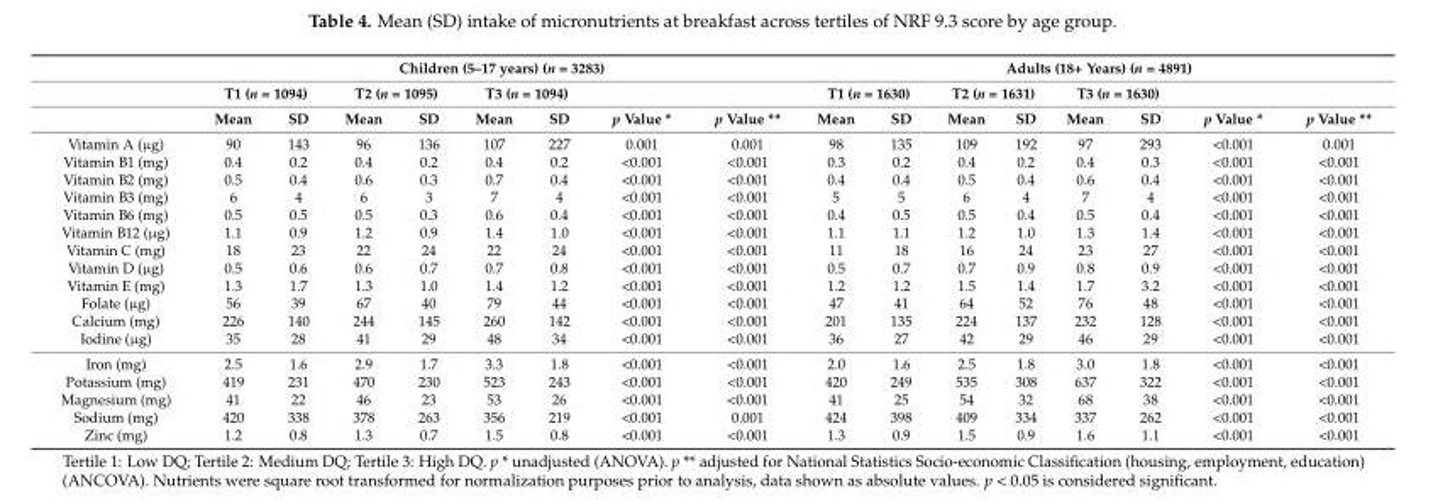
<table><thead><tr><td rowspan="3"></td><td colspan="8">Children (5–17 years) (n = 3283)</td><td colspan="8">Adults (18+ Years) (n = 4891)</td></tr><tr><td colspan="2">T1 (n = 1094)</td><td colspan="2">T2 (n = 1095)</td><td colspan="2">T3 (n = 1094)</td><td rowspan="2">p Value *</td><td rowspan="2">p Value **</td><td colspan="2">T1 (n = 1630)</td><td colspan="2">T2 (n = 1631)</td><td colspan="2">T3 (n = 1630)</td><td rowspan="2">p Value *</td><td rowspan="2">p Value **</td></tr><tr><td>Mean</td><td>SD</td><td>Mean</td><td>SD</td><td>Mean</td><td>SD</td><td>Mean</td><td>SD</td><td>Mean</td><td>SD</td><td>Mean</td><td>SD</td></tr></thead><tbody><tr><td>Vitamin A (µg)</td><td>90</td><td>143</td><td>96</td><td>136</td><td>107</td><td>227</td><td>0.001</td><td>0.001</td><td>98</td><td>135</td><td>109</td><td>192</td><td>97</td><td>293</td><td>&lt;0.001</td><td>0.001</td></tr><tr><td>Vitamin B1 (mg)</td><td>0.4</td><td>0.2</td><td>0.4</td><td>0.2</td><td>0.4</td><td>0.2</td><td>&lt;0.001</td><td>&lt;0.001</td><td>0.3</td><td>0.2</td><td>0.4</td><td>0.2</td><td>0.4</td><td>0.3</td><td>&lt;0.001</td><td>&lt;0.001</td></tr><tr><td>Vitamin B2 (mg)</td><td>0.5</td><td>0.4</td><td>0.6</td><td>0.3</td><td>0.7</td><td>0.4</td><td>&lt;0.001</td><td>&lt;0.001</td><td>0.4</td><td>0.4</td><td>0.5</td><td>0.4</td><td>0.6</td><td>0.4</td><td>&lt;0.001</td><td>&lt;0.001</td></tr><tr><td>Vitamin B3 (mg)</td><td>6</td><td>4</td><td>6</td><td>3</td><td>7</td><td>4</td><td>&lt;0.001</td><td>&lt;0.001</td><td>5</td><td>5</td><td>6</td><td>4</td><td>7</td><td>4</td><td>&lt;0.001</td><td>&lt;0.001</td></tr><tr><td>Vitamin B6 (mg)</td><td>0.5</td><td>0.5</td><td>0.5</td><td>0.3</td><td>0.6</td><td>0.4</td><td>&lt;0.001</td><td>&lt;0.001</td><td>0.4</td><td>0.5</td><td>0.5</td><td>0.4</td><td>0.5</td><td>0.4</td><td>&lt;0.001</td><td>&lt;0.001</td></tr><tr><td>Vitamin B12 (µg)</td><td>1.1</td><td>0.9</td><td>1.2</td><td>0.9</td><td>1.4</td><td>1.0</td><td>&lt;0.001</td><td>&lt;0.001</td><td>1.1</td><td>1.1</td><td>1.2</td><td>1.0</td><td>1.3</td><td>1.4</td><td>&lt;0.001</td><td>&lt;0.001</td></tr><tr><td>Vitamin C (mg)</td><td>18</td><td>23</td><td>22</td><td>24</td><td>22</td><td>24</td><td>&lt;0.001</td><td>&lt;0.001</td><td>11</td><td>18</td><td>16</td><td>24</td><td>23</td><td>27</td><td>&lt;0.001</td><td>&lt;0.001</td></tr><tr><td>Vitamin D (µg)</td><td>0.5</td><td>0.6</td><td>0.6</td><td>0.7</td><td>0.7</td><td>0.8</td><td>&lt;0.001</td><td>&lt;0.001</td><td>0.5</td><td>0.7</td><td>0.7</td><td>0.9</td><td>0.8</td><td>0.9</td><td>&lt;0.001</td><td>&lt;0.001</td></tr><tr><td>Vitamin E (mg)</td><td>1.3</td><td>1.7</td><td>1.3</td><td>1.0</td><td>1.4</td><td>1.2</td><td>&lt;0.001</td><td>&lt;0.001</td><td>1.2</td><td>1.2</td><td>1.5</td><td>1.4</td><td>1.7</td><td>3.2</td><td>&lt;0.001</td><td>&lt;0.001</td></tr><tr><td>Folate (µg)</td><td>56</td><td>39</td><td>67</td><td>40</td><td>79</td><td>44</td><td>&lt;0.001</td><td>&lt;0.001</td><td>47</td><td>41</td><td>64</td><td>52</td><td>76</td><td>48</td><td>&lt;0.001</td><td>&lt;0.001</td></tr><tr><td>Calcium (mg)</td><td>226</td><td>140</td><td>244</td><td>145</td><td>260</td><td>142</td><td>&lt;0.001</td><td>&lt;0.001</td><td>201</td><td>135</td><td>224</td><td>137</td><td>232</td><td>128</td><td>&lt;0.001</td><td>&lt;0.001</td></tr><tr><td>Iodine (µg)</td><td>35</td><td>28</td><td>41</td><td>29</td><td>48</td><td>34</td><td>&lt;0.001</td><td>&lt;0.001</td><td>36</td><td>27</td><td>42</td><td>29</td><td>46</td><td>29</td><td>&lt;0.001</td><td>&lt;0.001</td></tr><tr><td>Iron (mg)</td><td>2.5</td><td>1.6</td><td>2.9</td><td>1.7</td><td>3.3</td><td>1.8</td><td>&lt;0.001</td><td>&lt;0.001</td><td>2.0</td><td>1.6</td><td>2.5</td><td>1.8</td><td>3.0</td><td>1.8</td><td>&lt;0.001</td><td>&lt;0.001</td></tr><tr><td>Potassium (mg)</td><td>419</td><td>231</td><td>470</td><td>230</td><td>523</td><td>243</td><td>&lt;0.001</td><td>&lt;0.001</td><td>420</td><td>249</td><td>535</td><td>308</td><td>637</td><td>322</td><td>&lt;0.001</td><td>&lt;0.001</td></tr><tr><td>Magnesium (mg)</td><td>41</td><td>22</td><td>46</td><td>23</td><td>53</td><td>26</td><td>&lt;0.001</td><td>&lt;0.001</td><td>41</td><td>25</td><td>54</td><td>32</td><td>68</td><td>38</td><td>&lt;0.001</td><td>&lt;0.001</td></tr><tr><td>Sodium (mg)</td><td>420</td><td>338</td><td>378</td><td>263</td><td>356</td><td>219</td><td>&lt;0.001</td><td>0.001</td><td>424</td><td>398</td><td>409</td><td>334</td><td>337</td><td>262</td><td>&lt;0.001</td><td>&lt;0.001</td></tr><tr><td>Zinc (mg)</td><td>1.2</td><td>0.8</td><td>1.3</td><td>0.7</td><td>1.5</td><td>0.8</td><td>&lt;0.001</td><td>&lt;0.001</td><td>1.3</td><td>0.9</td><td>1.5</td><td>0.9</td><td>1.6</td><td>1.1</td><td>&lt;0.001</td><td>&lt;0.001</td></tr></tbody></table>